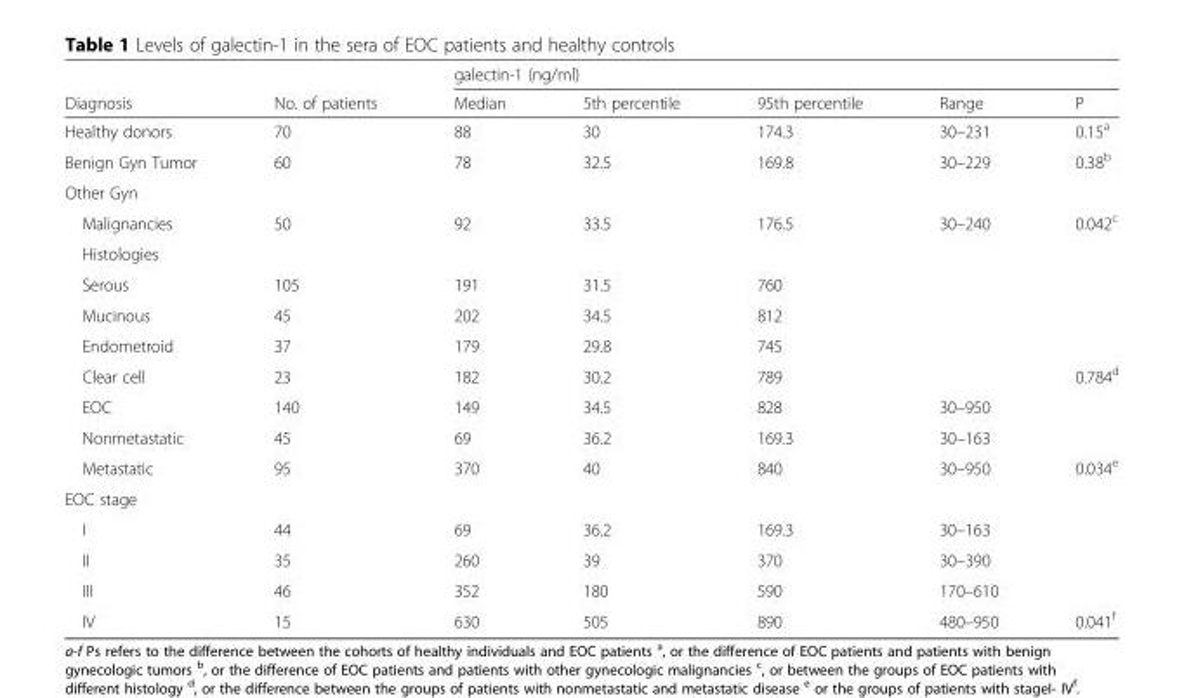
<table><thead><tr><td rowspan="2">Diagnosis</td><td rowspan="2">No. of patients</td><td colspan="5">galectin-1 (ng/ml)</td></tr><tr><td>Median</td><td>5th percentile</td><td>95th percentile</td><td>Range</td><td>P</td></tr></thead><tbody><tr><td>Healthy donors</td><td>70</td><td>88</td><td>30</td><td>174.3</td><td>30–231</td><td>0.15<sup>a</sup></td></tr><tr><td>Benign Gyn Tumor</td><td>60</td><td>78</td><td>32.5</td><td>169.8</td><td>30–229</td><td>0.38<sup>b</sup></td></tr><tr><td colspan="7">Other Gyn</td></tr><tr><td>Malignancies</td><td>50</td><td>92</td><td>33.5</td><td>176.5</td><td>30–240</td><td>0.042<sup>c</sup></td></tr><tr><td colspan="7">Histologies</td></tr><tr><td>Serous</td><td>105</td><td>191</td><td>31.5</td><td>760</td><td></td><td></td></tr><tr><td>Mucinous</td><td>45</td><td>202</td><td>34.5</td><td>812</td><td></td><td></td></tr><tr><td>Endometroid</td><td>37</td><td>179</td><td>29.8</td><td>745</td><td></td><td></td></tr><tr><td>Clear cell</td><td>23</td><td>182</td><td>30.2</td><td>789</td><td></td><td>0.784<sup>d</sup></td></tr><tr><td>EOC</td><td>140</td><td>149</td><td>34.5</td><td>828</td><td>30–950</td><td></td></tr><tr><td>Nonmetastatic</td><td>45</td><td>69</td><td>36.2</td><td>169.3</td><td>30–163</td><td></td></tr><tr><td>Metastatic</td><td>95</td><td>370</td><td>40</td><td>840</td><td>30–950</td><td>0.034<sup>e</sup></td></tr><tr><td colspan="7">EOC stage</td></tr><tr><td>I</td><td>44</td><td>69</td><td>36.2</td><td>169.3</td><td>30–163</td><td></td></tr><tr><td>II</td><td>35</td><td>260</td><td>39</td><td>370</td><td>30–390</td><td></td></tr><tr><td>III</td><td>46</td><td>352</td><td>180</td><td>590</td><td>170–610</td><td></td></tr><tr><td>IV</td><td>15</td><td>630</td><td>505</td><td>890</td><td>480–950</td><td>0.041<sup>f</sup></td></tr></tbody></table>